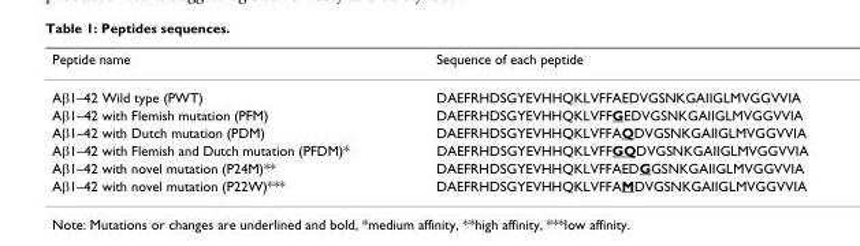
<table><thead><tr><td>Peptide name</td><td>Sequence of each peptide</td></tr></thead><tbody><tr><td>Aβ1–42 Wild type (PWT)</td><td>DAEFRHDSGYEVHHQKLVFFAEDVGSNKGAIIGLMVGGVVIA</td></tr><tr><td>Aβ1–42 with Flemish mutation (PFM)</td><td>DAEFRHDSGYEVHHQKLVFFGEDVGSNKGAIIGLMVGGVVIA</td></tr><tr><td>Aβ1–42 with Dutch mutation (PDM)</td><td>DAEFRHDSGYEVHHQKLVFFAQDVGSNKGAIIGLMVGGVVIA</td></tr><tr><td>Aβ1–42 with Flemish and Dutch mutation (PFDM)*</td><td>DAEFRHDSGYEVHHQKLVFFGQDVGSNKGAIIGLMVGGVVIA</td></tr><tr><td>Aβ1–42 with novel mutation (P24M)**</td><td>DAEFRHDSGYEVHHQKLVFFAEDGGSNKGAIIGLMVGGVVIA</td></tr><tr><td>Aβ1–42 with novel mutation (P22W)***</td><td>DAEFRHDSGYEVHHQKLVFFAMDVGSNKGAIIGLMVGGVVIA</td></tr></tbody></table>